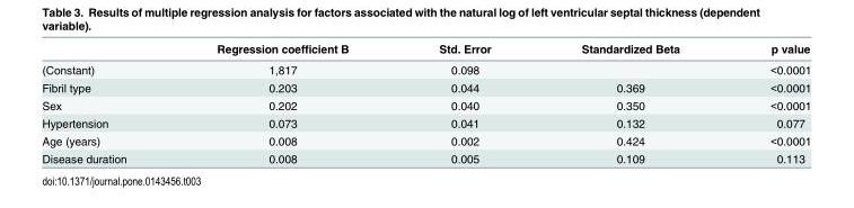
<table><thead><tr><td></td><td>Regression coefficient B</td><td>Std. Error</td><td>Standardized Beta</td><td>p value</td></tr></thead><tbody><tr><td>(Constant)</td><td>1,817</td><td>0.098</td><td></td><td>&lt;0.0001</td></tr><tr><td>Fibril type</td><td>0.203</td><td>0.044</td><td>0.369</td><td>&lt;0.0001</td></tr><tr><td>Sex</td><td>0.202</td><td>0.040</td><td>0.350</td><td>&lt;0.0001</td></tr><tr><td>Hypertension</td><td>0.073</td><td>0.041</td><td>0.132</td><td>0.077</td></tr><tr><td>Age (years)</td><td>0.008</td><td>0.002</td><td>0.424</td><td>&lt;0.0001</td></tr><tr><td>Disease duration</td><td>0.008</td><td>0.005</td><td>0.109</td><td>0.113</td></tr></tbody></table>